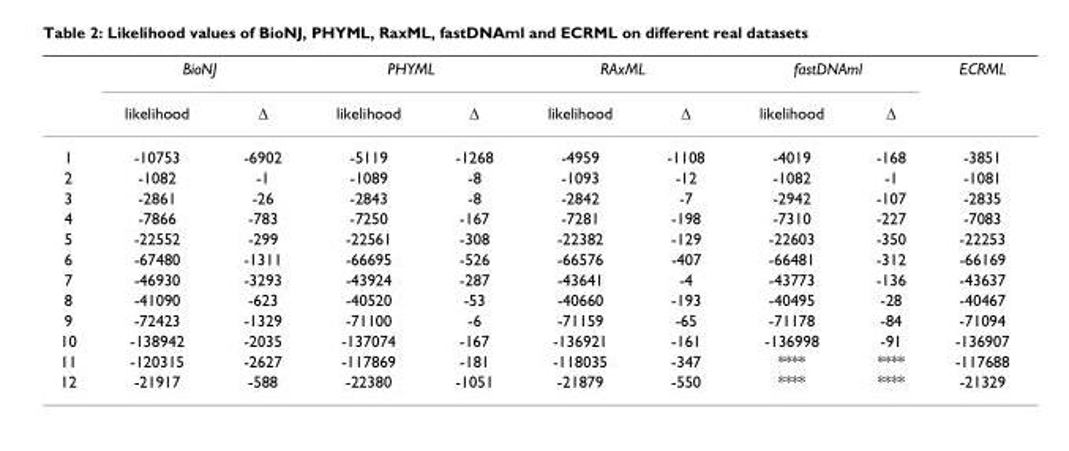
<table><thead><tr><td rowspan="2"></td><td colspan="2">BioNJ</td><td colspan="2">PHYML</td><td colspan="2">RAxML</td><td colspan="2">fastDNAml</td><td rowspan="2">ECRML</td></tr><tr><td>likelihood</td><td>Δ</td><td>likelihood</td><td>Δ</td><td>likelihood</td><td>Δ</td><td>likelihood</td><td>Δ</td></tr></thead><tbody><tr><td>1</td><td>-10753</td><td>-6902</td><td>-5119</td><td>-1268</td><td>-4959</td><td>-1108</td><td>-4019</td><td>-168</td><td>-3851</td></tr><tr><td>2</td><td>-1082</td><td>-1</td><td>-1089</td><td>-8</td><td>-1093</td><td>-12</td><td>-1082</td><td>-1</td><td>-1081</td></tr><tr><td>3</td><td>-2861</td><td>-26</td><td>-2843</td><td>-8</td><td>-2842</td><td>-7</td><td>-2942</td><td>-107</td><td>-2835</td></tr><tr><td>4</td><td>-7866</td><td>-783</td><td>-7250</td><td>-167</td><td>-7281</td><td>-198</td><td>-7310</td><td>-227</td><td>-7083</td></tr><tr><td>5</td><td>-22552</td><td>-299</td><td>-22561</td><td>-308</td><td>-22382</td><td>-129</td><td>-22603</td><td>-350</td><td>-22253</td></tr><tr><td>6</td><td>-67480</td><td>-1311</td><td>-66695</td><td>-526</td><td>-66576</td><td>-407</td><td>-66481</td><td>-312</td><td>-66169</td></tr><tr><td>7</td><td>-46930</td><td>-3293</td><td>-43924</td><td>-287</td><td>-43641</td><td>-4</td><td>-43773</td><td>-136</td><td>-43637</td></tr><tr><td>8</td><td>-41090</td><td>-623</td><td>-40520</td><td>-53</td><td>-40660</td><td>-193</td><td>-40495</td><td>-28</td><td>-40467</td></tr><tr><td>9</td><td>-72423</td><td>-1329</td><td>-71100</td><td>-6</td><td>-71159</td><td>-65</td><td>-71178</td><td>-84</td><td>-71094</td></tr><tr><td>10</td><td>-138942</td><td>-2035</td><td>-137074</td><td>-167</td><td>-136921</td><td>-161</td><td>-136998</td><td>-91</td><td>-136907</td></tr><tr><td>11</td><td>-120315</td><td>-2627</td><td>-117869</td><td>-181</td><td>-118035</td><td>-347</td><td>****</td><td>****</td><td>-117688</td></tr><tr><td>12</td><td>-21917</td><td>-588</td><td>-22380</td><td>-1051</td><td>-21879</td><td>-550</td><td>****</td><td>****</td><td>-21329</td></tr></tbody></table>